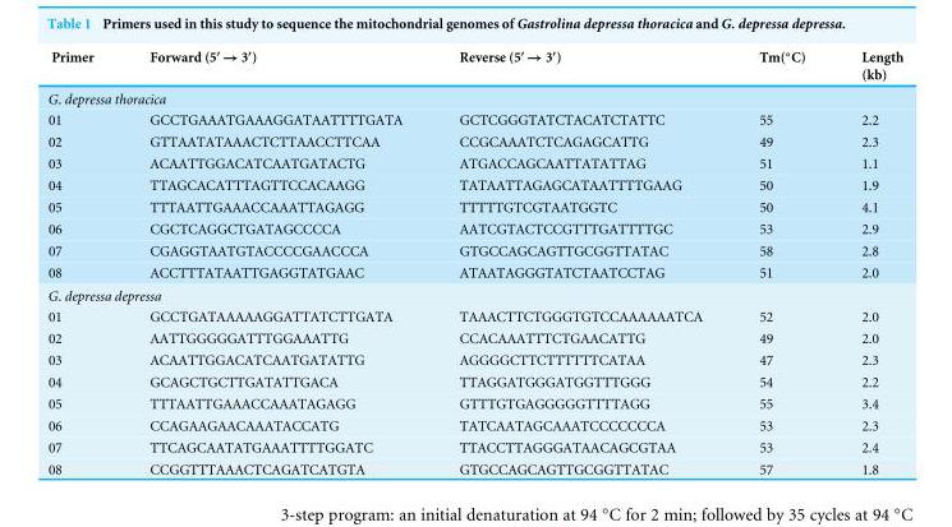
<table><thead><tr><td>Primer</td><td>Forward (5′ → 3′)</td><td>Reverse (5′ → 3′)</td><td>Tm(◦C)</td><td>Length (kb)</td></tr></thead><tbody><tr><td colspan="5">G. depressa thoracica</td></tr><tr><td>01</td><td>GCCTGAAATGAAAGGATAATTTTGATA</td><td>GCTCGGGTATCTACATCTATTC</td><td>55</td><td>2.2</td></tr><tr><td>02</td><td>GTTAATATAAACTCTTAACCTTCAA</td><td>CCGCAAATCTCAGAGCATTG</td><td>49</td><td>2.3</td></tr><tr><td>03</td><td>ACAATTGGACATCAATGATACTG</td><td>ATGACCAGCAATTATATTAG</td><td>51</td><td>1.1</td></tr><tr><td>04</td><td>TTAGCACATTTAGTTCCACAAGG</td><td>TATAATTAGAGCATAATTTTGAAG</td><td>50</td><td>1.9</td></tr><tr><td>05</td><td>TTTAATTGAAACCAAATTAGAGG</td><td>TTTTTGTCGTAATGGTC</td><td>50</td><td>4.1</td></tr><tr><td>06</td><td>CGCTCAGGCTGATAGCCCCA</td><td>AATCGTACTCCGTTTGATTTTGC</td><td>53</td><td>2.9</td></tr><tr><td>07</td><td>CGAGGTAATGTACCCCGAACCCA</td><td>GTGCCAGCAGTTGCGGTTATAC</td><td>58</td><td>2.8</td></tr><tr><td>08</td><td>ACCTTTATAATTGAGGTATGAAC</td><td>ATAATAGGGTATCTAATCCTAG</td><td>51</td><td>2.0</td></tr><tr><td colspan="5">G. depressa depressa</td></tr><tr><td>01</td><td>GCCTGATAAAAAGGATTATCTTGATA</td><td>TAAACTTCTGGGTGTCCAAAAAATCA</td><td>52</td><td>2.0</td></tr><tr><td>02</td><td>AATTGGGGGATTTGGAAATTG</td><td>CCACAAATTTCTGAACATTG</td><td>49</td><td>2.0</td></tr><tr><td>03</td><td>ACAATTGGACATCAATGATATTG</td><td>AGGGGCTTCTTTTTTCATAA</td><td>47</td><td>2.3</td></tr><tr><td>04</td><td>GCAGCTGCTTGATATTGACA</td><td>TTAGGATGGGATGGTTTGGG</td><td>54</td><td>2.2</td></tr><tr><td>05</td><td>TTTAATTGAAACCAAATAGAGG</td><td>GTTTGTGAGGGGGTTTTAGG</td><td>55</td><td>3.4</td></tr><tr><td>06</td><td>CCAGAAGAACAAATACCATG</td><td>TATCAATAGCAAATCCCCCCCA</td><td>53</td><td>2.3</td></tr><tr><td>07</td><td>TTCAGCAATATGAAATTTTGGATC</td><td>TTACCTTAGGGATAACAGCGTAA</td><td>53</td><td>2.4</td></tr><tr><td>08</td><td>CCGGTTTAAACTCAGATCATGTA</td><td>GTGCCAGCAGTTGCGGTTATAC</td><td>57</td><td>1.8</td></tr></tbody></table>